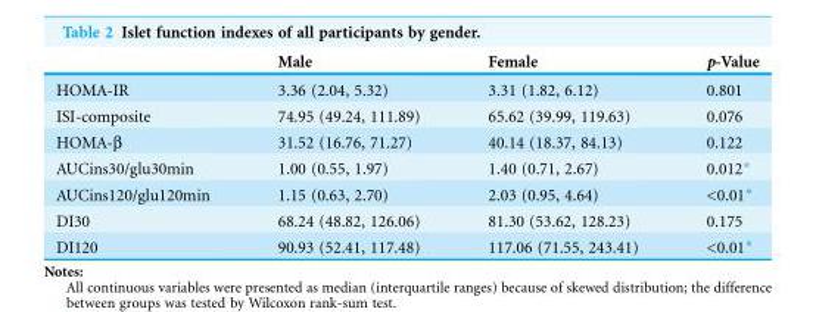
<table><thead><tr><td></td><td>Male</td><td>Female</td><td>p-Value</td></tr></thead><tbody><tr><td>HOMA-IR</td><td>3.36 (2.04, 5.32)</td><td>3.31 (1.82, 6.12)</td><td>0.801</td></tr><tr><td>ISI-composite</td><td>74.95 (49.24, 111.89)</td><td>65.62 (39.99, 119.63)</td><td>0.076</td></tr><tr><td>HOMA-β</td><td>31.52 (16.76, 71.27)</td><td>40.14 (18.37, 84.13)</td><td>0.122</td></tr><tr><td>AUCins30/glu30min</td><td>1.00 (0.55, 1.97)</td><td>1.40 (0.71, 2.67)</td><td>0.012*</td></tr><tr><td>AUCins120/glu120min</td><td>1.15 (0.63, 2.70)</td><td>2.03 (0.95, 4.64)</td><td>&lt;0.01*</td></tr><tr><td>DI30</td><td>68.24 (48.82, 126.06)</td><td>81.30 (53.62, 128.23)</td><td>0.175</td></tr><tr><td>DI120</td><td>90.93 (52.41, 117.48)</td><td>117.06 (71.55, 243.41)</td><td>&lt;0.01*</td></tr></tbody></table>